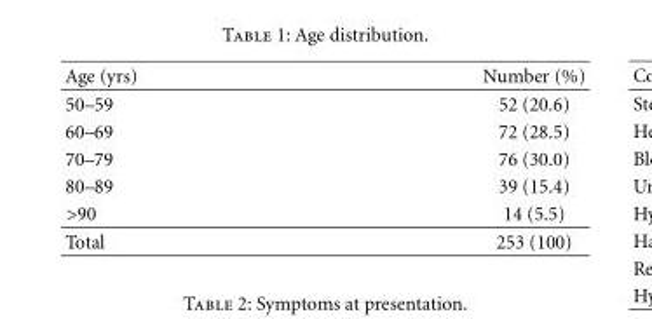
<table><thead><tr><td>Age (yrs)</td><td>Number (%)</td></tr></thead><tbody><tr><td>50–59</td><td>52 (20.6)</td></tr><tr><td>60–69</td><td>72 (28.5)</td></tr><tr><td>70–79</td><td>76 (30.0)</td></tr><tr><td>80–89</td><td>39 (15.4)</td></tr><tr><td>&gt;90</td><td>14 (5.5)</td></tr><tr><td>Total</td><td>253 (100)</td></tr></tbody></table>